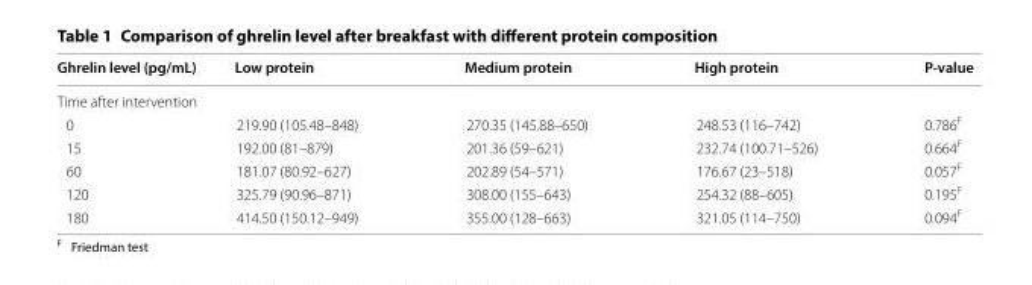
<table><thead><tr><td>Ghrelin level (pg/mL)</td><td>Low protein</td><td>Medium protein</td><td>High protein</td><td>P-value</td></tr></thead><tbody><tr><td colspan="5">Time after intervention</td></tr><tr><td>0</td><td>219.90 (105.48–848)</td><td>270.35 (145.88–650)</td><td>248.53 (116–742)</td><td>0.786<sup>F</sup></td></tr><tr><td>15</td><td>192.00 (81–879)</td><td>201.36 (59–621)</td><td>232.74 (100.71–526)</td><td>0.664<sup>F</sup></td></tr><tr><td>60</td><td>181.07 (80.92–627)</td><td>202.89 (54–571)</td><td>176.67 (23–518)</td><td>0.057<sup>F</sup></td></tr><tr><td>120</td><td>325.79 (90.96–871)</td><td>308.00 (155–643)</td><td>254.32 (88–605)</td><td>0.195<sup>F</sup></td></tr><tr><td>180</td><td>414.50 (150.12–949)</td><td>355.00 (128–663)</td><td>321.05 (114–750)</td><td>0.094<sup>F</sup></td></tr></tbody></table>